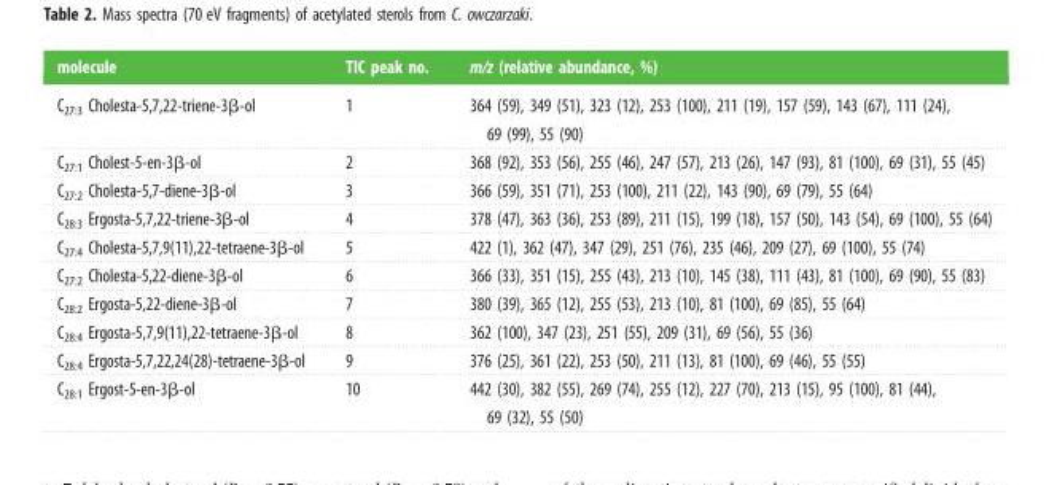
<table><thead><tr><td>molecule</td><td>TIC peak no.</td><td>m/z (relative abundance, %)</td></tr></thead><tbody><tr><td>C<sub>27:3</sub> Cholesta-5,7,22-triene-3β-ol</td><td>1</td><td>364 (59), 349 (51), 323 (12), 253 (100), 211 (19), 157 (59), 143 (67), 111 (24), 69 (99), 55 (90)</td></tr><tr><td>C<sub>27:1</sub> Cholest-5-en-3β-ol</td><td>2</td><td>368 (92), 353 (56), 255 (46), 247 (57), 213 (26), 147 (93), 81 (100), 69 (31), 55 (45)</td></tr><tr><td>C<sub>27:2</sub> Cholesta-5,7-diene-3β-ol</td><td>3</td><td>366 (59), 351 (71), 253 (100), 211 (22), 143 (90), 69 (79), 55 (64)</td></tr><tr><td>C<sub>28:3</sub> Ergosta-5,7,22-triene-3β-ol</td><td>4</td><td>378 (47), 363 (36), 253 (89), 211 (15), 199 (18), 157 (50), 143 (54), 69 (100), 55 (64)</td></tr><tr><td>C<sub>27:4</sub> Cholesta-5,7,9(11),22-tetraene-3β-ol</td><td>5</td><td>422 (1), 362 (47), 347 (29), 251 (76), 235 (46), 209 (27), 69 (100), 55 (74)</td></tr><tr><td>C<sub>27:2</sub> Cholesta-5,22-diene-3β-ol</td><td>6</td><td>366 (33), 351 (15), 255 (43), 213 (10), 145 (38), 111 (43), 81 (100), 69 (90), 55 (83)</td></tr><tr><td>C<sub>28:2</sub> Ergosta-5,22-diene-3β-ol</td><td>7</td><td>380 (39), 365 (12), 255 (53), 213 (10), 81 (100), 69 (85), 55 (64)</td></tr><tr><td>C<sub>28:4</sub> Ergosta-5,7,9(11),22-tetraene-3β-ol</td><td>8</td><td>362 (100), 347 (23), 251 (55), 209 (31), 69 (56), 55 (36)</td></tr><tr><td>C<sub>28:4</sub> Ergosta-5,7,22,24(28)-tetraene-3β-ol</td><td>9</td><td>376 (25), 361 (22), 253 (50), 211 (13), 81 (100), 69 (46), 55 (55)</td></tr><tr><td>C<sub>28:1</sub> Ergost-5-en-3β-ol</td><td>10</td><td>442 (30), 382 (55), 269 (74), 255 (12), 227 (70), 213 (15), 95 (100), 81 (44), 69 (32), 55 (50)</td></tr></tbody></table>